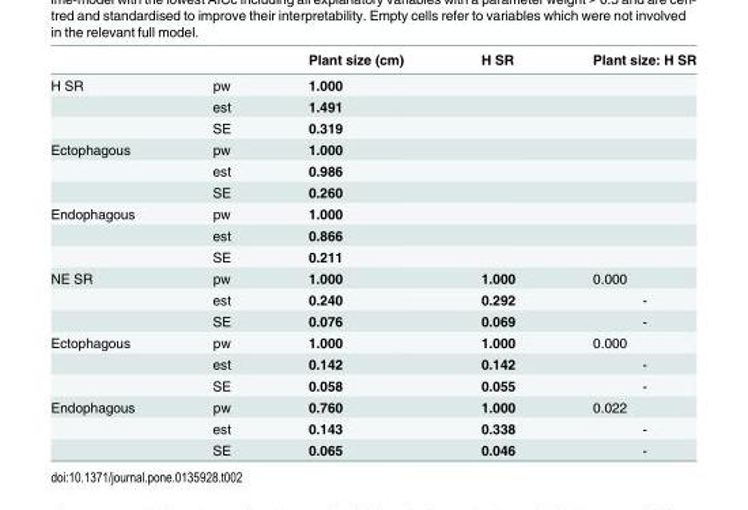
<table><thead><tr><td></td><td></td><td>Plant size (cm)</td><td>H SR</td><td>Plant size: H SR</td></tr></thead><tbody><tr><td rowspan="3">H SR</td><td>pw</td><td>1.000</td><td></td><td></td></tr><tr><td>est</td><td>1.491</td><td></td><td></td></tr><tr><td>SE</td><td>0.319</td><td></td><td></td></tr><tr><td rowspan="3">Ectophagous</td><td>pw</td><td>1.000</td><td></td><td></td></tr><tr><td>est</td><td>0.986</td><td></td><td></td></tr><tr><td>SE</td><td>0.260</td><td></td><td></td></tr><tr><td rowspan="3">Endophagous</td><td>pw</td><td>1.000</td><td></td><td></td></tr><tr><td>est</td><td>0.866</td><td></td><td></td></tr><tr><td>SE</td><td>0.211</td><td></td><td></td></tr><tr><td rowspan="3">NE SR</td><td>pw</td><td>1.000</td><td>1.000</td><td>0.000</td></tr><tr><td>est</td><td>0.240</td><td>0.292</td><td>-</td></tr><tr><td>SE</td><td>0.076</td><td>0.069</td><td>-</td></tr><tr><td rowspan="3">Ectophagous</td><td>pw</td><td>1.000</td><td>1.000</td><td>0.000</td></tr><tr><td>est</td><td>0.142</td><td>0.142</td><td>-</td></tr><tr><td>SE</td><td>0.058</td><td>0.055</td><td>-</td></tr><tr><td rowspan="3">Endophagous</td><td>pw</td><td>0.760</td><td>1.000</td><td>0.022</td></tr><tr><td>est</td><td>0.143</td><td>0.338</td><td>-</td></tr><tr><td>SE</td><td>0.065</td><td>0.046</td><td>-</td></tr></tbody></table>